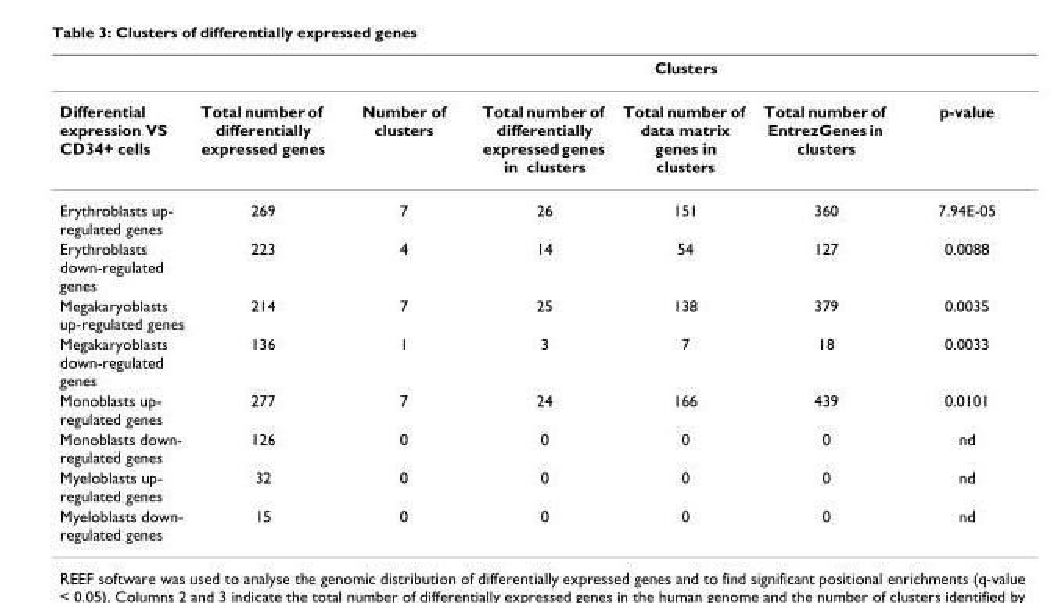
<table><thead><tr><td rowspan="2">Differential expression VS CD34+ cells</td><td rowspan="2">Total number of differentially expressed genes</td><td colspan="5">Clusters</td></tr><tr><td>Number of clusters</td><td>Total number of differentially expressed genes in clusters</td><td>Total number of data matrix genes in clusters</td><td>Total number of EntrezGenes in clusters</td><td>p-value</td></tr></thead><tbody><tr><td>Erythroblasts up- regulated genes</td><td>269</td><td>7</td><td>26</td><td>151</td><td>360</td><td>7.94E-05</td></tr><tr><td>Erythroblasts down-regulated genes</td><td>223</td><td>4</td><td>14</td><td>54</td><td>127</td><td>0.0088</td></tr><tr><td>Megakaryoblasts up-regulated genes</td><td>214</td><td>7</td><td>25</td><td>138</td><td>379</td><td>0.0035</td></tr><tr><td>Megakaryoblasts down-regulated genes</td><td>136</td><td>1</td><td>3</td><td>7</td><td>18</td><td>0.0033</td></tr><tr><td>Monoblasts up- regulated genes</td><td>277</td><td>7</td><td>24</td><td>166</td><td>439</td><td>0.0101</td></tr><tr><td>Monoblasts down- regulated genes</td><td>126</td><td>0</td><td>0</td><td>0</td><td>0</td><td>nd</td></tr><tr><td>Myeloblasts up- regulated genes</td><td>32</td><td>0</td><td>0</td><td>0</td><td>0</td><td>nd</td></tr><tr><td>Myeloblasts down- regulated genes</td><td>15</td><td>0</td><td>0</td><td>0</td><td>0</td><td>nd</td></tr></tbody></table>